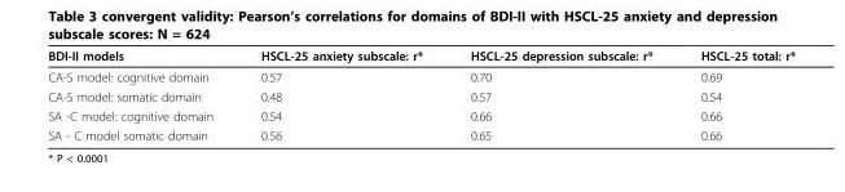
<table><thead><tr><td>BDI-II models</td><td>HSCL-25 anxiety subscale: r*</td><td>HSCL-25 depression subscale: r*</td><td>HSCL-25 total: r*</td></tr></thead><tbody><tr><td>CA-S model: cognitive domain</td><td>0.57</td><td>0.70</td><td>0.69</td></tr><tr><td>CA-S model: somatic domain</td><td>0.48</td><td>0.57</td><td>0.54</td></tr><tr><td>SA -C model: cognitive domain</td><td>0.54</td><td>0.66</td><td>0.66</td></tr><tr><td>SA - C model somatic domain</td><td>0.56</td><td>0.65</td><td>0.66</td></tr></tbody></table>